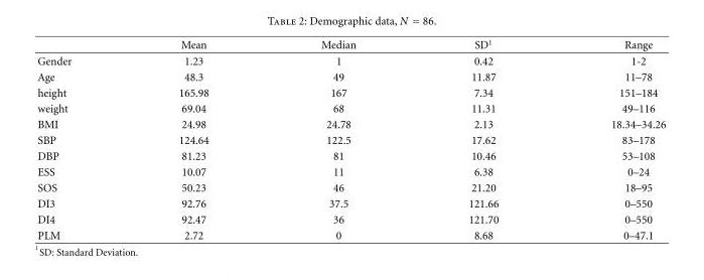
<table><thead><tr><td></td><td>Mean</td><td>Median</td><td>SD<sup>1</sup></td><td>Range</td></tr></thead><tbody><tr><td>Gender</td><td>1.23</td><td>1</td><td>0.42</td><td>1-2</td></tr><tr><td>Age</td><td>48.3</td><td>49</td><td>11.87</td><td>11–78</td></tr><tr><td>height</td><td>165.98</td><td>167</td><td>7.34</td><td>151–184</td></tr><tr><td>weight</td><td>69.04</td><td>68</td><td>11.31</td><td>49–116</td></tr><tr><td>BMI</td><td>24.98</td><td>24.78</td><td>2.13</td><td>18.34–34.26</td></tr><tr><td>SBP</td><td>124.64</td><td>122.5</td><td>17.62</td><td>83–178</td></tr><tr><td>DBP</td><td>81.23</td><td>81</td><td>10.46</td><td>53–108</td></tr><tr><td>ESS</td><td>10.07</td><td>11</td><td>6.38</td><td>0–24</td></tr><tr><td>SOS</td><td>50.23</td><td>46</td><td>21.20</td><td>18–95</td></tr><tr><td>DI3</td><td>92.76</td><td>37.5</td><td>121.66</td><td>0–550</td></tr><tr><td>DI4</td><td>92.47</td><td>36</td><td>121.70</td><td>0–550</td></tr><tr><td>PLM</td><td>2.72</td><td>0</td><td>8.68</td><td>0–47.1</td></tr></tbody></table>